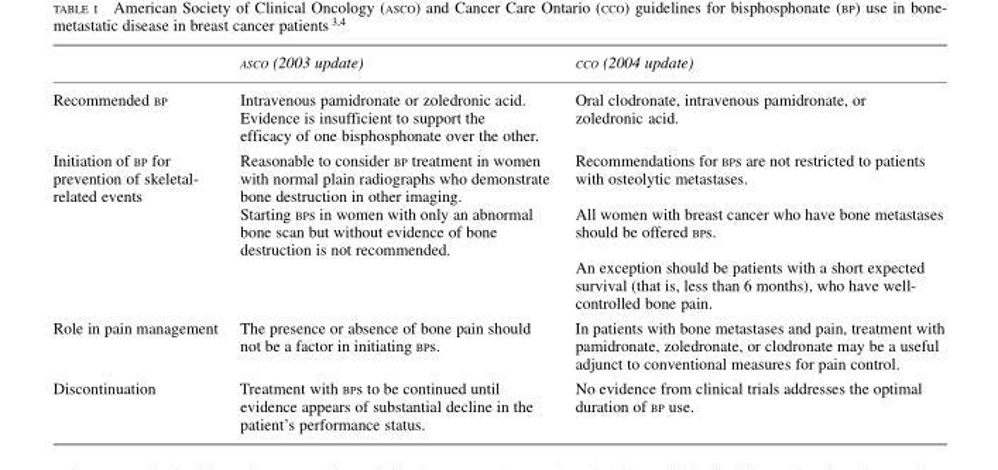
<table><thead><tr><td></td><td>ASCO (2003 update)</td><td>CCO (2004 update)</td></tr></thead><tbody><tr><td>Recommended BP</td><td>Intravenous pamidronate or zoledronic acid. Evidence is insufficient to support the efficacy of one bisphosphonate over the other.</td><td>Oral clodronate, intravenous pamidronate, or zoledronic acid.</td></tr><tr><td>Initiation of BP for prevention of skeletal- related events</td><td>Reasonable to consider BP treatment in women with normal plain radiographs who demonstrate bone destruction in other imaging. Starting BPs in women with only an abnormal bone scan but without evidence of bone destruction is not recommended.</td><td>Recommendations for BPs are not restricted to patients with osteolytic metastases. All women with breast cancer who have bone metastases should be offered BPs. An exception should be patients with a short expected survival (that is, less than 6 months), who have well- controlled bone pain.</td></tr><tr><td>Role in pain management</td><td>The presence or absence of bone pain should not be a factor in initiating BPs.</td><td>In patients with bone metastases and pain, treatment with pamidronate, zoledronate, or clodronate may be a useful adjunct to conventional measures for pain control.</td></tr><tr><td>Discontinuation</td><td>Treatment with BPs to be continued until evidence appears of substantial decline in the</td><td>No evidence from clinical trials addresses the optimal duration of BP use.</td></tr></tbody></table>